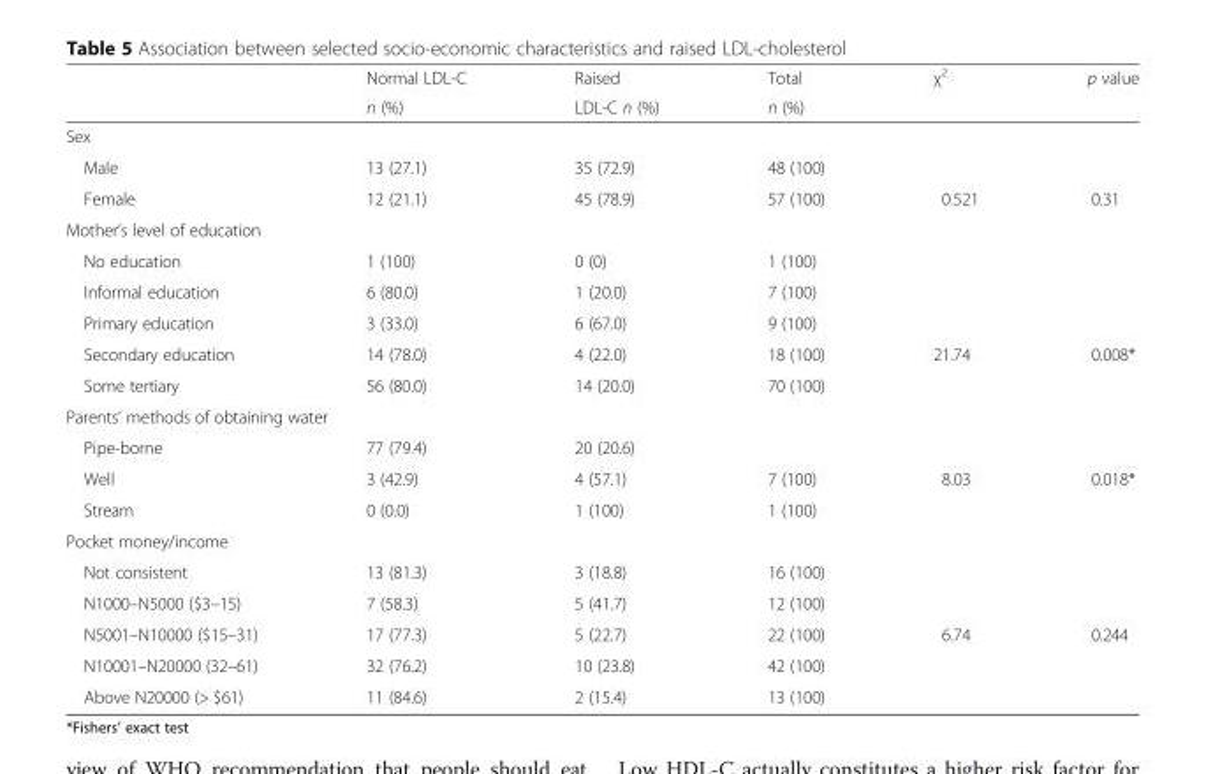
<table><thead><tr><td rowspan="2"></td><td rowspan="2">Normal LDL-C n (%)</td><td rowspan="2">Raised LDL-C n (%)</td><td rowspan="2">Total n (%)</td><td rowspan="2">χ<sup>2</sup></td><td rowspan="2">p value</td></tr><tr></tr></thead><tbody><tr><td colspan="6">Sex</td></tr><tr><td>Male</td><td>13 (27.1)</td><td>35 (72.9)</td><td>48 (100)</td><td></td><td></td></tr><tr><td>Female</td><td>12 (21.1)</td><td>45 (78.9)</td><td>57 (100)</td><td>0.521</td><td>0.31</td></tr><tr><td colspan="6">Mother’s level of education</td></tr><tr><td>No education</td><td>1 (100)</td><td>0 (0)</td><td>1 (100)</td><td></td><td></td></tr><tr><td>Informal education</td><td>6 (80.0)</td><td>1 (20.0)</td><td>7 (100)</td><td></td><td></td></tr><tr><td>Primary education</td><td>3 (33.0)</td><td>6 (67.0)</td><td>9 (100)</td><td></td><td></td></tr><tr><td>Secondary education</td><td>14 (78.0)</td><td>4 (22.0)</td><td>18 (100)</td><td>21.74</td><td>0.008*</td></tr><tr><td>Some tertiary</td><td>56 (80.0)</td><td>14 (20.0)</td><td>70 (100)</td><td></td><td></td></tr><tr><td colspan="6">Parents’ methods of obtaining water</td></tr><tr><td>Pipe-borne</td><td>77 (79.4)</td><td>20 (20.6)</td><td></td><td></td><td></td></tr><tr><td>Well</td><td>3 (42.9)</td><td>4 (57.1)</td><td>7 (100)</td><td>8.03</td><td>0.018*</td></tr><tr><td>Stream</td><td>0 (0.0)</td><td>1 (100)</td><td>1 (100)</td><td></td><td></td></tr><tr><td colspan="6">Pocket money/income</td></tr><tr><td>Not consistent</td><td>13 (81.3)</td><td>3 (18.8)</td><td>16 (100)</td><td></td><td></td></tr><tr><td>N1000–N5000 ($3–15)</td><td>7 (58.3)</td><td>5 (41.7)</td><td>12 (100)</td><td></td><td></td></tr><tr><td>N5001–N10000 ($15–31)</td><td>17 (77.3)</td><td>5 (22.7)</td><td>22 (100)</td><td>6.74</td><td>0.244</td></tr><tr><td>N10001–N20000 (32–61)</td><td>32 (76.2)</td><td>10 (23.8)</td><td>42 (100)</td><td></td><td></td></tr><tr><td>Above N20000 (&gt; $61)</td><td>11 (84.6)</td><td>2 (15.4)</td><td>13 (100)</td><td></td><td></td></tr></tbody></table>